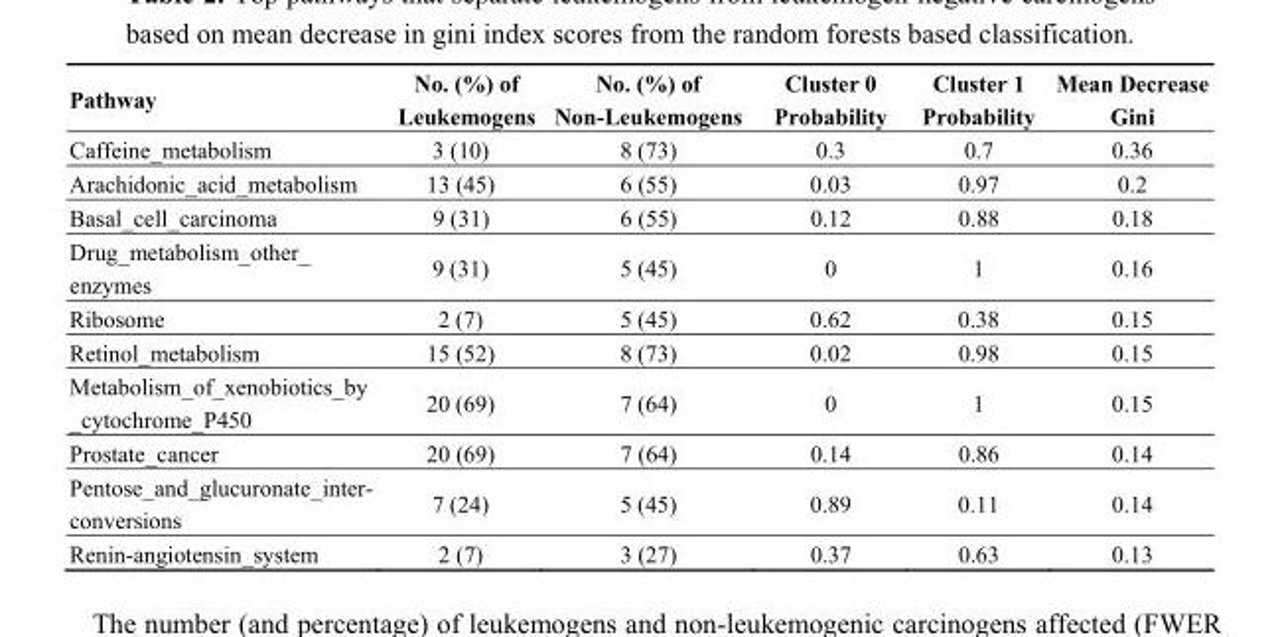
<table><thead><tr><td>Pathway</td><td>No. (%) of Leukemogens</td><td>No. (%) of Non-Leukemogens</td><td>Cluster 0 Probability</td><td>Cluster 1 Probability</td><td>Mean Decrease Gini</td></tr></thead><tbody><tr><td>Caffeine_metabolism</td><td>3 (10)</td><td>8 (73)</td><td>0.3</td><td>0.7</td><td>0.36</td></tr><tr><td>Arachidonic_acid_metabolism</td><td>13 (45)</td><td>6 (55)</td><td>0.03</td><td>0.97</td><td>0.2</td></tr><tr><td>Basal_cell_carcinoma</td><td>9 (31)</td><td>6 (55)</td><td>0.12</td><td>0.88</td><td>0.18</td></tr><tr><td>Drug_metabolism_other_ enzymes</td><td>9 (31)</td><td>5 (45)</td><td>0</td><td>1</td><td>0.16</td></tr><tr><td>Ribosome</td><td>2 (7)</td><td>5 (45)</td><td>0.62</td><td>0.38</td><td>0.15</td></tr><tr><td>Retinol_metabolism</td><td>15 (52)</td><td>8 (73)</td><td>0.02</td><td>0.98</td><td>0.15</td></tr><tr><td>Metabolism_of_xenobiotics_by _cytochrome_P450</td><td>20 (69)</td><td>7 (64)</td><td>0</td><td>1</td><td>0.15</td></tr><tr><td>Prostate_cancer</td><td>20 (69)</td><td>7 (64)</td><td>0.14</td><td>0.86</td><td>0.14</td></tr><tr><td>Pentose_and_glucuronate_inter- conversions</td><td>7 (24)</td><td>5 (45)</td><td>0.89</td><td>0.11</td><td>0.14</td></tr><tr><td>Renin-angiotensin_system</td><td>2 (7)</td><td>3 (27)</td><td>0.37</td><td>0.63</td><td>0.13</td></tr></tbody></table>